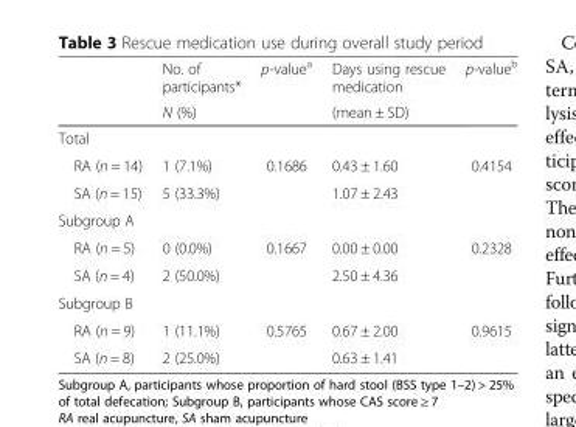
<table><thead><tr><td rowspan="2"></td><td rowspan="2">No. of participants* N (%)</td><td rowspan="2">p-value<sup>a</sup></td><td rowspan="2">Days using rescue medication (mean ± SD)</td><td rowspan="2">p-value<sup>b</sup></td></tr><tr></tr></thead><tbody><tr><td colspan="5">Total</td></tr><tr><td>RA (n = 14)</td><td>1 (7.1%)</td><td>0.1686</td><td>0.43 ± 1.60</td><td>0.4154</td></tr><tr><td>SA (n = 15)</td><td>5 (33.3%)</td><td></td><td>1.07 ± 2.43</td><td></td></tr><tr><td colspan="5">Subgroup A</td></tr><tr><td>RA (n = 5)</td><td>0 (0.0%)</td><td>0.1667</td><td>0.00 ± 0.00</td><td>0.2328</td></tr><tr><td>SA (n = 4)</td><td>2 (50.0%)</td><td></td><td>2.50 ± 4.36</td><td></td></tr><tr><td colspan="5">Subgroup B</td></tr><tr><td>RA (n = 9)</td><td>1 (11.1%)</td><td>0.5765</td><td>0.67 ± 2.00</td><td>0.9615</td></tr><tr><td>SA (n = 8)</td><td>2 (25.0%)</td><td></td><td>0.63 ± 1.41</td><td></td></tr></tbody></table>